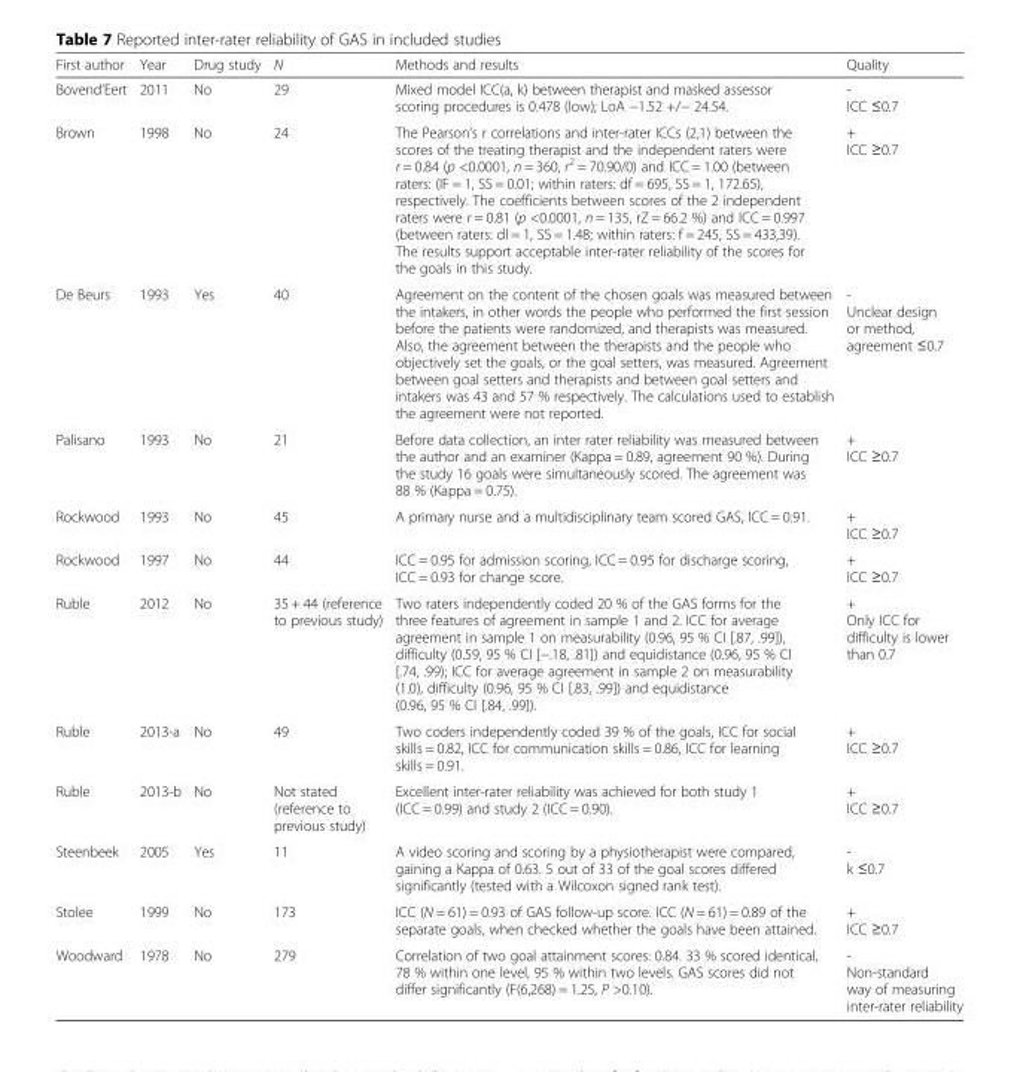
<table><thead><tr><td>First author</td><td>Year</td><td>Drug study</td><td>N</td><td>Methods and results</td><td>Quality</td></tr></thead><tbody><tr><td>Bovend’Eert</td><td>2011</td><td>No</td><td>29</td><td>Mixed model ICC(a, k) between therapist and masked assessor scoring procedures is 0.478 (low); LoA −1.52 +/− 24.54.</td><td>- ICC ≤0.7</td></tr><tr><td>Brown</td><td>1998</td><td>No</td><td>24</td><td>The Pearson’s r correlations and inter-rater ICCs (2,1) between the scores of the treating therapist and the independent raters were r = 0.84 (p &lt;0.0001, n = 360, r<sup>2</sup> = 70.90/0) and ICC = 1.00 (between raters: (IF = 1, SS = 0.01; within raters: df = 695, SS = 1, 172.65), respectively. The coefficients between scores of the 2 independent raters were r = 0.81 (p &lt;0.0001, n = 135, rZ = 66.2 %) and ICC = 0.997 (between raters: dl = 1, SS = 1.48; within raters: f = 245, SS = 433,39). The results support acceptable inter-rater reliability of the scores for the goals in this study.</td><td>+ ICC ≥0.7</td></tr><tr><td>De Beurs</td><td>1993</td><td>Yes</td><td>40</td><td>Agreement on the content of the chosen goals was measured between the intakers, in other words the people who performed the first session before the patients were randomized, and therapists was measured. Also, the agreement between the therapists and the people who objectively set the goals, or the goal setters, was measured. Agreement between goal setters and therapists and between goal setters and intakers was 43 and 57 % respectively. The calculations used to establish the agreement were not reported.</td><td>- Unclear design or method, agreement ≤0.7</td></tr><tr><td>Palisano</td><td>1993</td><td>No</td><td>21</td><td>Before data collection, an inter rater reliability was measured between the author and an examiner (Kappa = 0.89, agreement 90 %). During the study 16 goals were simultaneously scored. The agreement was 88 % (Kappa = 0.75).</td><td>+ ICC ≥0.7</td></tr><tr><td>Rockwood</td><td>1993</td><td>No</td><td>45</td><td>A primary nurse and a multidisciplinary team scored GAS, ICC = 0.91.</td><td>+ ICC ≥0.7</td></tr><tr><td>Rockwood</td><td>1997</td><td>No</td><td>44</td><td>ICC = 0.95 for admission scoring, ICC = 0.95 for discharge scoring, ICC = 0.93 for change score.</td><td>+ ICC ≥0.7</td></tr><tr><td>Ruble</td><td>2012</td><td>No</td><td>35 + 44 (reference to previous study)</td><td>Two raters independently coded 20 % of the GAS forms for the three features of agreement in sample 1 and 2. ICC for average agreement in sample 1 on measurability (0.96, 95 % CI [.87, .99]), difficulty (0.59, 95 % CI [−.18, .81]) and equidistance (0.96, 95 % CI [.74, .99); ICC for average agreement in sample 2 on measurability (1.0), difficulty (0.96, 95 % CI [.83, .99]) and equidistance (0.96, 95 % CI [.84, .99]).</td><td>+ Only ICC for difficulty is lower than 0.7</td></tr><tr><td>Ruble</td><td>2013-a</td><td>No</td><td>49</td><td>Two coders independently coded 39 % of the goals, ICC for social skills = 0.82, ICC for communication skills = 0.86, ICC for learning skills = 0.91.</td><td>+ ICC ≥0.7</td></tr><tr><td>Ruble</td><td>2013-b</td><td>No</td><td>Not stated (reference to previous study)</td><td>Excellent inter-rater reliability was achieved for both study 1 (ICC = 0.99) and study 2 (ICC = 0.90).</td><td>+ ICC ≥0.7</td></tr><tr><td>Steenbeek</td><td>2005</td><td>Yes</td><td>11</td><td>A video scoring and scoring by a physiotherapist were compared, gaining a Kappa of 0.63. 5 out of 33 of the goal scores differed significantly (tested with a Wilcoxon signed rank test).</td><td>- k ≤0.7</td></tr><tr><td>Stolee</td><td>1999</td><td>No</td><td>173</td><td>ICC (N = 61) = 0.93 of GAS follow-up score. ICC (N = 61) = 0.89 of the separate goals, when checked whether the goals have been attained.</td><td>+ ICC ≥0.7</td></tr><tr><td>Woodward</td><td>1978</td><td>No</td><td>279</td><td>Correlation of two goal attainment scores: 0.84. 33 % scored identical, 78 % within one level, 95 % within two levels. GAS scores did not differ significantly (F(6,268) = 1.25, P &gt;0.10).</td><td>- Non-standard way of measuring inter-rater reliability</td></tr></tbody></table>